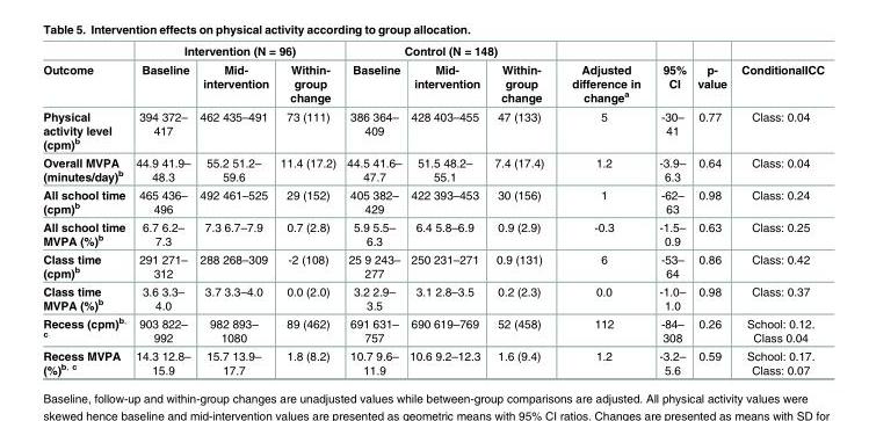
<table><thead><tr><td rowspan="2">Outcome</td><td colspan="3">Intervention (N = 96)</td><td colspan="3">Control (N = 148)</td><td rowspan="2">Adjusted difference in change<sup>a</sup></td><td rowspan="2">95% CI</td><td rowspan="2">p- value</td><td rowspan="2">ConditionalICC</td></tr><tr><td>Baseline</td><td>Mid- intervention</td><td>Within- group change</td><td>Baseline</td><td>Mid- intervention</td><td>Within- group change</td></tr></thead><tbody><tr><td>Physical activity level (cpm)<sup>b</sup></td><td>394 372– 417</td><td>462 435–491</td><td>73 (111)</td><td>386 364– 409</td><td>428 403–455</td><td>47 (133)</td><td>5</td><td>-30– 41</td><td>0.77</td><td>Class: 0.04</td></tr><tr><td>Overall MVPA (minutes/day)<sup>b</sup></td><td>44.9 41.9– 48.3</td><td>55.2 51.2– 59.6</td><td>11.4 (17.2)</td><td>44.5 41.6– 47.7</td><td>51.5 48.2– 55.1</td><td>7.4 (17.4)</td><td>1.2</td><td>-3.9– 6.3</td><td>0.64</td><td>Class: 0.04</td></tr><tr><td>All school time (cpm)<sup>b</sup></td><td>465 436– 496</td><td>492 461–525</td><td>29 (152)</td><td>405 382– 429</td><td>422 393–453</td><td>30 (156)</td><td>1</td><td>-62– 63</td><td>0.98</td><td>Class: 0.24</td></tr><tr><td>All school time MVPA (%)<sup>b</sup></td><td>6.7 6.2– 7.3</td><td>7.3 6.7–7.9</td><td>0.7 (2.8)</td><td>5.9 5.5– 6.3</td><td>6.4 5.8–6.9</td><td>0.9 (2.9)</td><td>-0.3</td><td>-1.5– 0.9</td><td>0.63</td><td>Class: 0.25</td></tr><tr><td>Class time (cpm)<sup>b</sup></td><td>291 271– 312</td><td>288 268–309</td><td>-2 (108)</td><td>25 9 243– 277</td><td>250 231–271</td><td>0.9 (131)</td><td>6</td><td>-53– 64</td><td>0.86</td><td>Class: 0.42</td></tr><tr><td>Class time MVPA (%)<sup>b</sup></td><td>3.6 3.3– 4.0</td><td>3.7 3.3–4.0</td><td>0.0 (2.0)</td><td>3.2 2.9– 3.5</td><td>3.1 2.8–3.5</td><td>0.2 (2.3)</td><td>0.0</td><td>-1.0– 1.0</td><td>0.98</td><td>Class: 0.37</td></tr><tr><td>Recess (cpm)<sup>b, c</sup></td><td>903 822– 992</td><td>982 893– 1080</td><td>89 (462)</td><td>691 631– 757</td><td>690 619–769</td><td>52 (458)</td><td>112</td><td>-84– 308</td><td>0.26</td><td>School: 0.12. Class 0.04</td></tr><tr><td>Recess MVPA (%)<sup>b, c</sup></td><td>14.3 12.8– 15.9</td><td>15.7 13.9– 17.7</td><td>1.8 (8.2)</td><td>10.7 9.6– 11.9</td><td>10.6 9.2–12.3</td><td>1.6 (9.4)</td><td>1.2</td><td>-3.2– 5.6</td><td>0.59</td><td>School: 0.17. Class: 0.07</td></tr></tbody></table>